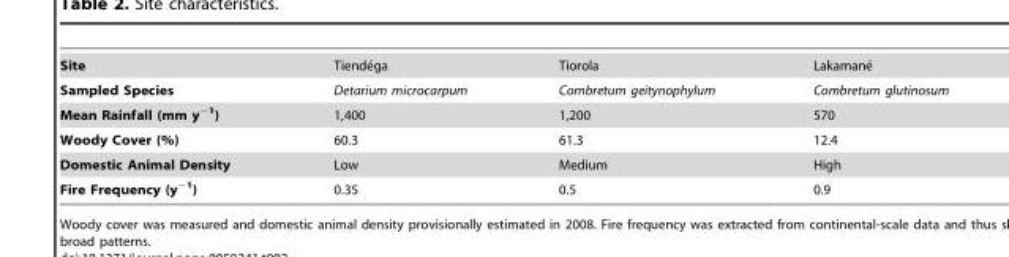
<table><tbody><tr><td>Site</td><td>Tiende´ga</td><td>Tiorola</td><td>Lakamane´</td></tr><tr><td>Sampled Species</td><td>Detarium microcarpum</td><td>Combretum geitynophylum</td><td>Combretum glutinosum</td></tr><tr><td>Mean Rainfall (mm y<sup>−1</sup>)</td><td>1,400</td><td>1,200</td><td>570</td></tr><tr><td>Woody Cover (%)</td><td>60.3</td><td>61.3</td><td>12.4</td></tr><tr><td>Domestic Animal Density</td><td>Low</td><td>Medium</td><td>High</td></tr><tr><td>Fire Frequency (y<sup>−1</sup>)</td><td>0.35</td><td>0.5</td><td>0.9</td></tr></tbody></table>